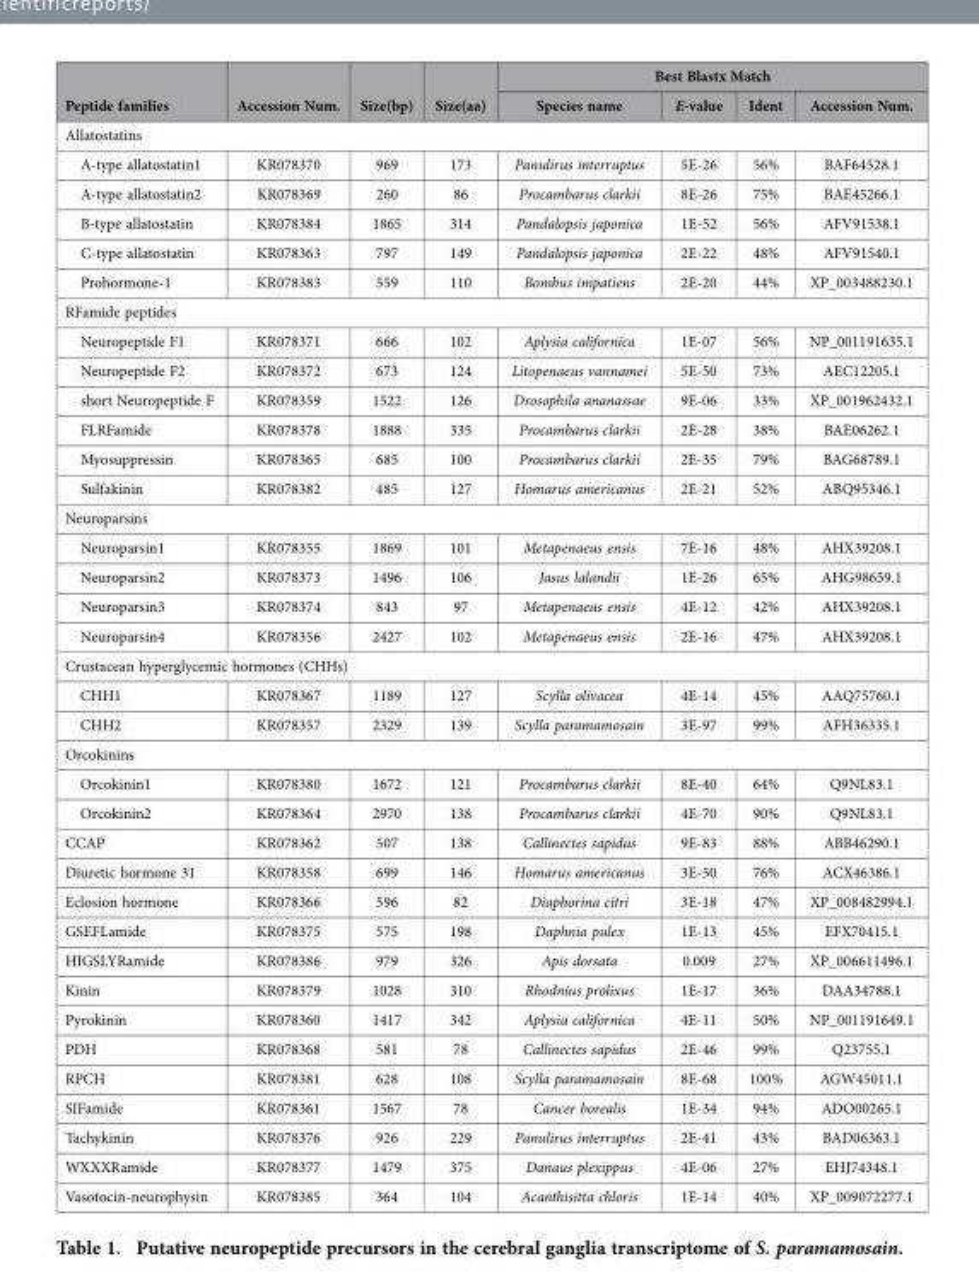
<table><thead><tr><td rowspan="2">Peptide families</td><td rowspan="2">Accession Num.</td><td rowspan="2">Size(bp)</td><td rowspan="2">Size(aa)</td><td colspan="4">Best Blastx Match</td></tr><tr><td>Species name</td><td>E-value</td><td>Ident</td><td>Accession Num.</td></tr></thead><tbody><tr><td colspan="8">Allatostatins</td></tr><tr><td>A-type allatostatin1</td><td>KR078370</td><td>969</td><td>173</td><td>Panulirus interruptus</td><td>5E-26</td><td>56%</td><td>BAF64528.1</td></tr><tr><td>A-type allatostatin2</td><td>KR078369</td><td>260</td><td>86</td><td>Procambarus clarkii</td><td>8E-26</td><td>75%</td><td>BAE45266.1</td></tr><tr><td>B-type allatostatin</td><td>KR078384</td><td>1865</td><td>314</td><td>Pandalopsis japonica</td><td>1E-52</td><td>56%</td><td>AFV91538.1</td></tr><tr><td>C-type allatostatin</td><td>KR078363</td><td>797</td><td>149</td><td>Pandalopsis japonica</td><td>2E-22</td><td>48%</td><td>AFV91540.1</td></tr><tr><td>Prohormone-1</td><td>KR078383</td><td>559</td><td>110</td><td>Bombus impatiens</td><td>2E-20</td><td>44%</td><td>XP_003488230.1</td></tr><tr><td colspan="8">RFamide peptides</td></tr><tr><td>Neuropeptide F1</td><td>KR078371</td><td>666</td><td>102</td><td>Aplysia californica</td><td>1E-07</td><td>56%</td><td>NP_001191635.1</td></tr><tr><td>Neuropeptide F2</td><td>KR078372</td><td>673</td><td>124</td><td>Litopenaeus vannamei</td><td>5E-50</td><td>73%</td><td>AEC12205.1</td></tr><tr><td>short Neuropeptide F</td><td>KR078359</td><td>1522</td><td>126</td><td>Drosophila ananassae</td><td>9E-06</td><td>33%</td><td>XP_001962432.1</td></tr><tr><td>FLRFamide</td><td>KR078378</td><td>1888</td><td>335</td><td>Procambarus clarkii</td><td>2E-28</td><td>38%</td><td>BAE06262.1</td></tr><tr><td>Myosuppressin</td><td>KR078365</td><td>685</td><td>100</td><td>Procambarus clarkii</td><td>2E-35</td><td>79%</td><td>BAG68789.1</td></tr><tr><td>Sulfakinin</td><td>KR078382</td><td>485</td><td>127</td><td>Homarus americanus</td><td>2E-21</td><td>52%</td><td>ABQ95346.1</td></tr><tr><td colspan="8">Neuroparsins</td></tr><tr><td>Neuroparsin1</td><td>KR078355</td><td>1869</td><td>101</td><td>Metapenaeus ensis</td><td>7E-16</td><td>48%</td><td>AHX39208.1</td></tr><tr><td>Neuroparsin2</td><td>KR078373</td><td>1496</td><td>106</td><td>Jasus lalandii</td><td>1E-26</td><td>65%</td><td>AHG98659.1</td></tr><tr><td>Neuroparsin3</td><td>KR078374</td><td>843</td><td>97</td><td>Metapenaeus ensis</td><td>4E-12</td><td>42%</td><td>AHX39208.1</td></tr><tr><td>Neuroparsin4</td><td>KR078356</td><td>2427</td><td>102</td><td>Metapenaeus ensis</td><td>2E-16</td><td>47%</td><td>AHX39208.1</td></tr><tr><td colspan="8">Crustacean hyperglycemic hormones (CHHs)</td></tr><tr><td>CHH1</td><td>KR078367</td><td>1189</td><td>127</td><td>Scylla olivacea</td><td>4E-14</td><td>45%</td><td>AAQ75760.1</td></tr><tr><td>CHH2</td><td>KR078357</td><td>2329</td><td>139</td><td>Scylla paramamosain</td><td>3E-97</td><td>99%</td><td>AFH36335.1</td></tr><tr><td colspan="8">Orcokinins</td></tr><tr><td>Orcokinin1</td><td>KR078380</td><td>1672</td><td>121</td><td>Procambarus clarkii</td><td>8E-40</td><td>64%</td><td>Q9NL83.1</td></tr><tr><td>Orcokinin2</td><td>KR078364</td><td>2970</td><td>138</td><td>Procambarus clarkii</td><td>4E-70</td><td>90%</td><td>Q9NL83.1</td></tr><tr><td>CCAP</td><td>KR078362</td><td>507</td><td>138</td><td>Callinectes sapidus</td><td>9E-83</td><td>88%</td><td>ABB46290.1</td></tr><tr><td>Diuretic hormone 31</td><td>KR078358</td><td>699</td><td>146</td><td>Homarus americanus</td><td>3E-50</td><td>76%</td><td>ACX46386.1</td></tr><tr><td>Eclosion hormone</td><td>KR078366</td><td>596</td><td>82</td><td>Diaphorina citri</td><td>3E-18</td><td>47%</td><td>XP_008482994.1</td></tr><tr><td>GSEFLamide</td><td>KR078375</td><td>575</td><td>198</td><td>Daphnia pulex</td><td>1E-13</td><td>45%</td><td>EFX70415.1</td></tr><tr><td>HIGSLYRamide</td><td>KR078386</td><td>979</td><td>326</td><td>Apis dorsata</td><td>0.009</td><td>27%</td><td>XP_006611496.1</td></tr><tr><td>Kinin</td><td>KR078379</td><td>1028</td><td>310</td><td>Rhodnius prolixus</td><td>1E-17</td><td>36%</td><td>DAA34788.1</td></tr><tr><td>Pyrokinin</td><td>KR078360</td><td>1417</td><td>342</td><td>Aplysia californica</td><td>4E-11</td><td>50%</td><td>NP_001191649.1</td></tr><tr><td>PDH</td><td>KR078368</td><td>581</td><td>78</td><td>Callinectes sapidus</td><td>2E-46</td><td>99%</td><td>Q23755.1</td></tr><tr><td>RPCH</td><td>KR078381</td><td>628</td><td>108</td><td>Scylla paramamosain</td><td>8E-68</td><td>100%</td><td>AGW45011.1</td></tr><tr><td>SIFamide</td><td>KR078361</td><td>1567</td><td>78</td><td>Cancer borealis</td><td>1E-34</td><td>94%</td><td>ADO00265.1</td></tr><tr><td>Tachykinin</td><td>KR078376</td><td>926</td><td>229</td><td>Panulirus interruptus</td><td>2E-41</td><td>43%</td><td>BAD06363.1</td></tr><tr><td>WXXXRamide</td><td>KR078377</td><td>1479</td><td>375</td><td>Danaus plexippus</td><td>4E-06</td><td>27%</td><td>EHJ74348.1</td></tr><tr><td>Vasotocin-neurophysin</td><td>KR078385</td><td>364</td><td>104</td><td>Acanthisitta chloris</td><td>1E-14</td><td>40%</td><td>XP_009072277.1</td></tr></tbody></table>